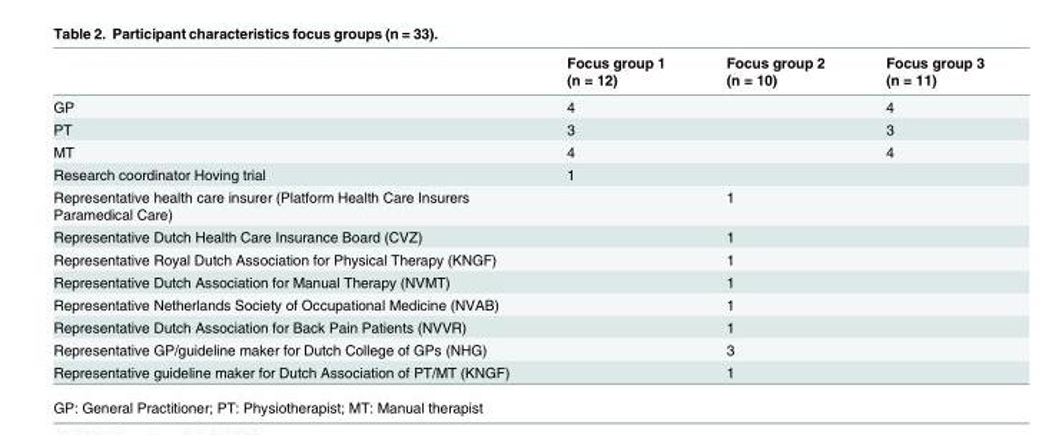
<table><thead><tr><td></td><td>Focus group 1 (n = 12)</td><td>Focus group 2 (n = 10)</td><td>Focus group 3 (n = 11)</td></tr></thead><tbody><tr><td>GP</td><td>4</td><td></td><td>4</td></tr><tr><td>PT</td><td>3</td><td></td><td>3</td></tr><tr><td>MT</td><td>4</td><td></td><td>4</td></tr><tr><td>Research coordinator Hoving trial</td><td>1</td><td></td><td></td></tr><tr><td>Representative health care insurer (Platform Health Care Insurers Paramedical Care)</td><td></td><td>1</td><td></td></tr><tr><td>Representative Dutch Health Care Insurance Board (CVZ)</td><td></td><td>1</td><td></td></tr><tr><td>Representative Royal Dutch Association for Physical Therapy (KNGF)</td><td></td><td>1</td><td></td></tr><tr><td>Representative Dutch Association for Manual Therapy (NVMT)</td><td></td><td>1</td><td></td></tr><tr><td>Representative Netherlands Society of Occupational Medicine (NVAB)</td><td></td><td>1</td><td></td></tr><tr><td>Representative Dutch Association for Back Pain Patients (NVVR)</td><td></td><td>1</td><td></td></tr><tr><td>Representative GP/guideline maker for Dutch College of GPs (NHG)</td><td></td><td>3</td><td></td></tr><tr><td>Representative guideline maker for Dutch Association of PT/MT (KNGF)</td><td></td><td>1</td><td></td></tr></tbody></table>